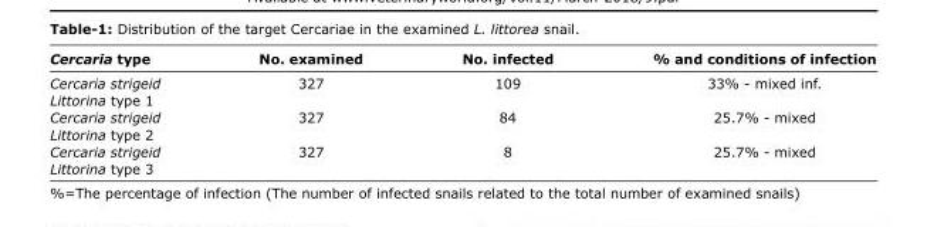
<table><thead><tr><td>Cercaria type</td><td>No. examined</td><td>No. infected</td><td>% and conditions of infection</td></tr></thead><tbody><tr><td>Cercaria strigeid</td><td>327</td><td>109</td><td>33% - mixed inf.</td></tr><tr><td colspan="4">Littorina type 1</td></tr><tr><td>Cercaria strigeid</td><td>327</td><td>84</td><td>25.7% - mixed</td></tr><tr><td colspan="4">Littorina type 2</td></tr><tr><td>Cercaria strigeid</td><td>327</td><td>8</td><td>25.7% - mixed</td></tr><tr><td>Littorina type 3</td><td></td><td></td><td></td></tr></tbody></table>